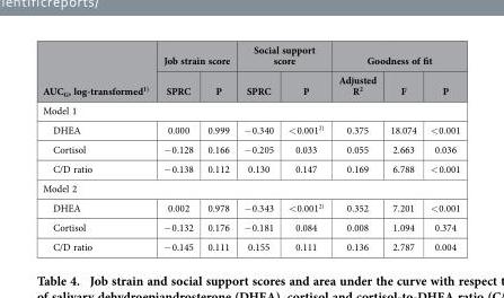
<table><thead><tr><td rowspan="2">AUC<sub>G</sub>, log-transformed1)</td><td colspan="2">Job strain score</td><td colspan="2">Social support score</td><td colspan="3">Goodness of fit</td></tr><tr><td>SPRC</td><td>P</td><td>SPRC</td><td>P</td><td>Adjusted R<sup>2</sup></td><td>F</td><td>P</td></tr></thead><tbody><tr><td colspan="8">Model 1</td></tr><tr><td>DHEA</td><td>0.000</td><td>0.999</td><td>− 0.340</td><td>&lt; 0.0012)</td><td>0.375</td><td>18.074</td><td>&lt; 0.001</td></tr><tr><td>Cortisol</td><td>− 0.128</td><td>0.166</td><td>− 0.205</td><td>0.033</td><td>0.055</td><td>2.663</td><td>0.036</td></tr><tr><td>C/D ratio</td><td>− 0.138</td><td>0.112</td><td>0.130</td><td>0.147</td><td>0.169</td><td>6.788</td><td>&lt; 0.001</td></tr><tr><td colspan="8">Model 2</td></tr><tr><td>DHEA</td><td>0.002</td><td>0.978</td><td>− 0.343</td><td>&lt; 0.0012)</td><td>0.352</td><td>7.201</td><td>&lt; 0.001</td></tr><tr><td>Cortisol</td><td>− 0.132</td><td>0.176</td><td>− 0.181</td><td>0.084</td><td>0.008</td><td>1.094</td><td>0.374</td></tr><tr><td>C/D ratio</td><td>− 0.145</td><td>0.111</td><td>0.155</td><td>0.111</td><td>0.136</td><td>2.787</td><td>0.004</td></tr></tbody></table>